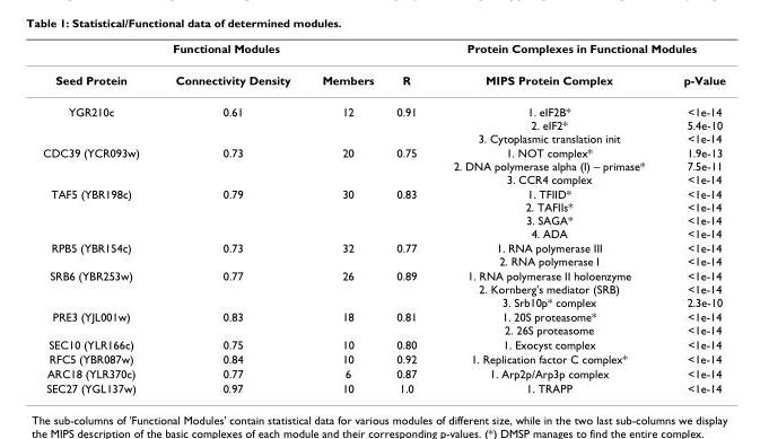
<table><thead><tr><td colspan="4">Functional Modules</td><td colspan="2">Protein Complexes in Functional Modules</td></tr><tr><td>Seed Protein</td><td>Connectivity Density</td><td>Members</td><td>R</td><td>MIPS Protein Complex</td><td>p-Value</td></tr></thead><tbody><tr><td>YGR210c</td><td>0.61</td><td>12</td><td>0.91</td><td>1. eIF2B* 2. eIF2* 3. Cytoplasmic translation init</td><td>&lt;1e-14 5.4e-10 &lt;1e-14</td></tr><tr><td>CDC39 (YCR093w)</td><td>0.73</td><td>20</td><td>0.75</td><td>1. NOT complex* 2. DNA polymerase alpha (I) – primase* 3. CCR4 complex</td><td>1.9e-13 7.5e-11 &lt;1e-14</td></tr><tr><td>TAF5 (YBR198c)</td><td>0.79</td><td>30</td><td>0.83</td><td>1. TFIID* 2. TAFIIs* 3. SAGA* 4. ADA</td><td>&lt;1e-14 &lt;1e-14 &lt;1e-14 &lt;1e-14</td></tr><tr><td>RPB5 (YBR154c)</td><td>0.73</td><td>32</td><td>0.77</td><td>1. RNA polymerase III 2. RNA polymerase I</td><td>&lt;1e-14 &lt;1e-14</td></tr><tr><td>SRB6 (YBR253w)</td><td>0.77</td><td>26</td><td>0.89</td><td>1. RNA polymerase II holoenzyme 2. Kornberg&#x27;s mediator (SRB) 3. Srb10p* complex</td><td>&lt;1e-14 &lt;1e-14 2.3e-10</td></tr><tr><td>PRE3 (YJL001w)</td><td>0.83</td><td>18</td><td>0.81</td><td>1. 20S proteasome* 2. 26S proteasome</td><td>&lt;1e-14 &lt;1e-14</td></tr><tr><td>SEC10 (YLR166c)</td><td>0.75</td><td>10</td><td>0.80</td><td>1. Exocyst complex</td><td>&lt;1e-14</td></tr><tr><td>RFC5 (YBR087w)</td><td>0.84</td><td>10</td><td>0.92</td><td>1. Replication factor C complex*</td><td>&lt;1e-14</td></tr><tr><td>ARC18 (YLR370c)</td><td>0.77</td><td>6</td><td>0.87</td><td>1. Arp2p/Arp3p complex</td><td>&lt;1e-14</td></tr><tr><td>SEC27 (YGL137w)</td><td>0.97</td><td>10</td><td>1.0</td><td>1. TRAPP</td><td>&lt;1e-14</td></tr></tbody></table>